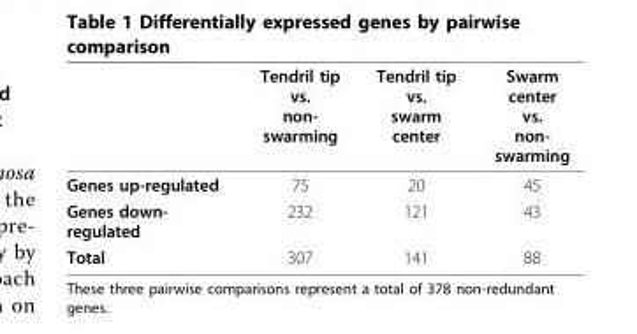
<table><thead><tr><td></td><td>Tendril tip vs. non- swarming</td><td>Tendril tip vs. swarm center</td><td>Swarm center vs. non- swarming</td></tr></thead><tbody><tr><td>Genes up-regulated</td><td>75</td><td>20</td><td>45</td></tr><tr><td>Genes down- regulated</td><td>232</td><td>121</td><td>43</td></tr><tr><td>Total</td><td>307</td><td>141</td><td>88</td></tr></tbody></table>